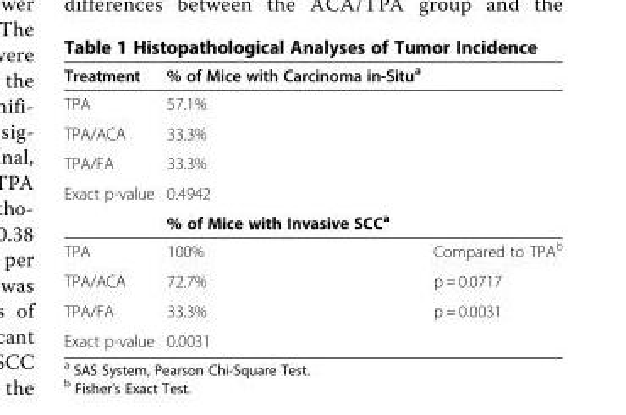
<table><thead><tr><td>Treatment</td><td>% of Mice with Carcinoma in-Situ<sup>a</sup></td><td></td></tr></thead><tbody><tr><td>TPA</td><td>57.1%</td><td></td></tr><tr><td>TPA/ACA</td><td>33.3%</td><td></td></tr><tr><td>TPA/FA</td><td>33.3%</td><td></td></tr><tr><td rowspan="2">Exact p-value</td><td>0.4942</td><td></td></tr><tr><td>% of Mice with Invasive SCC<sup>a</sup></td><td></td></tr><tr><td>TPA</td><td>100%</td><td>Compared to TPA<sup>b</sup></td></tr><tr><td>TPA/ACA</td><td>72.7%</td><td>p = 0.0717</td></tr><tr><td>TPA/FA</td><td>33.3%</td><td>p = 0.0031</td></tr><tr><td>Exact p-value</td><td>0.0031</td><td></td></tr></tbody></table>